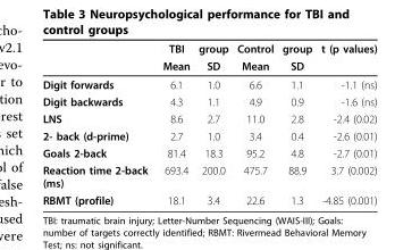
<table><thead><tr><td rowspan="2"></td><td rowspan="2">TBI Mean</td><td rowspan="2">group SD</td><td rowspan="2">Control Mean</td><td rowspan="2">group SD</td><td rowspan="2">t (p values)</td></tr><tr></tr></thead><tbody><tr><td>Digit forwards</td><td>6.1</td><td>1.0</td><td>6.6</td><td>1.1</td><td>-1.1 (ns)</td></tr><tr><td>Digit backwards</td><td>4.3</td><td>1.1</td><td>4.9</td><td>0.9</td><td>-1.6 (ns)</td></tr><tr><td>LNS</td><td>8.6</td><td>2.7</td><td>11.0</td><td>2.8</td><td>-2.4 (0.02)</td></tr><tr><td>2- back (d-prime)</td><td>2.7</td><td>1.0</td><td>3.4</td><td>0.4</td><td>-2.6 (0.01)</td></tr><tr><td>Goals 2-back</td><td>81.4</td><td>18.3</td><td>95.2</td><td>4.8</td><td>-2.7 (0.01)</td></tr><tr><td>Reaction time 2-back (ms)</td><td>693.4</td><td>200.0</td><td>475.7</td><td>88.9</td><td>3.7 (0.002)</td></tr><tr><td>RBMT (profile)</td><td>18.1</td><td>3.4</td><td>22.6</td><td>1.3</td><td>-4.85 (0.001)</td></tr></tbody></table>